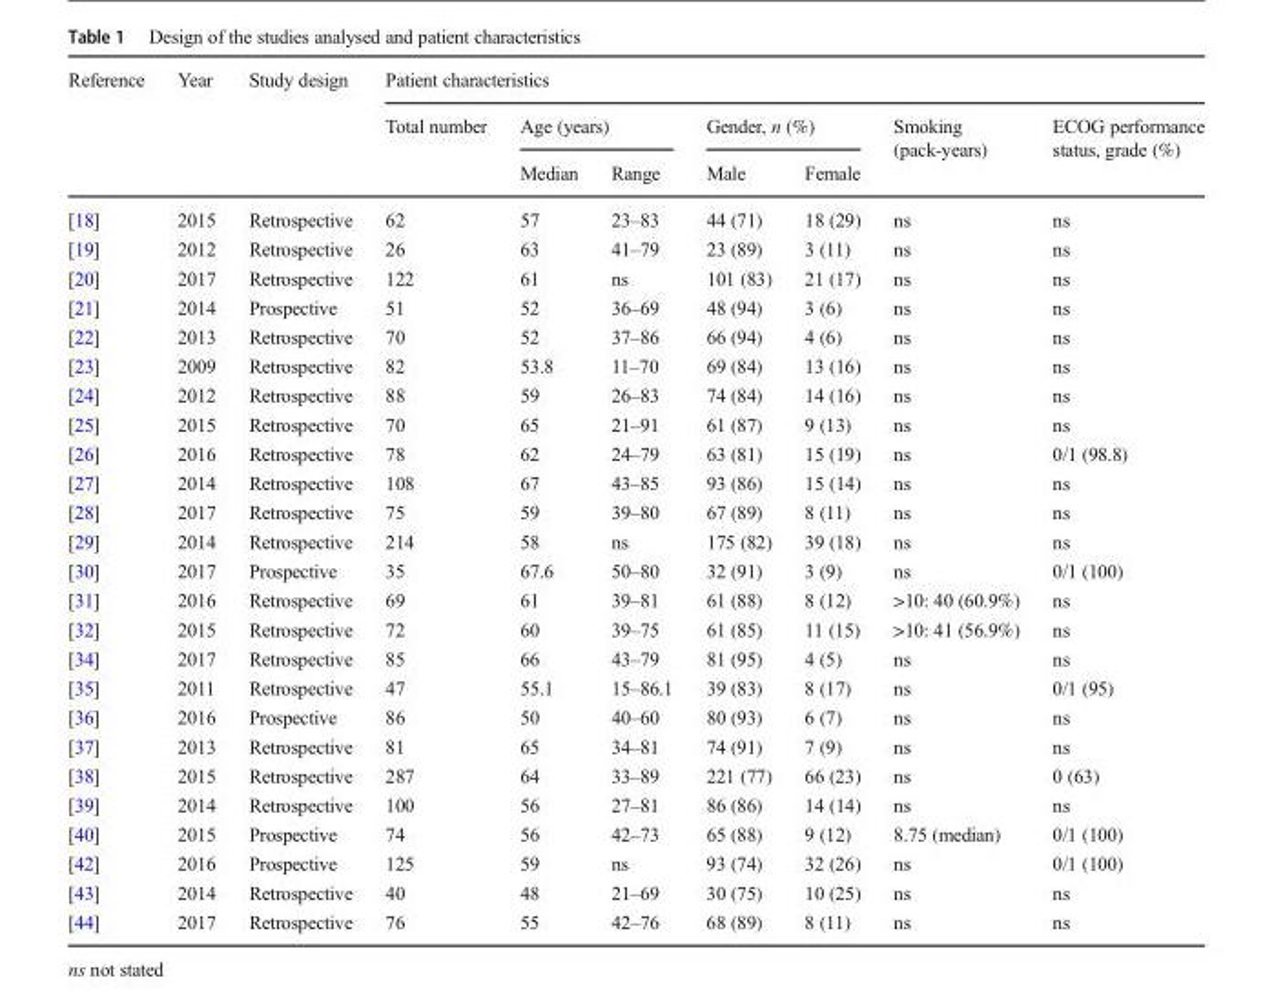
<table><thead><tr><td rowspan="3">Reference</td><td rowspan="3">Year</td><td rowspan="3">Study design</td><td colspan="7">Patient characteristics</td></tr><tr><td rowspan="2">Total number</td><td colspan="2">Age (years)</td><td colspan="2">Gender, n (%)</td><td rowspan="2">Smoking (pack-years)</td><td rowspan="2">ECOG performance status, grade (%)</td></tr><tr><td>Median</td><td>Range</td><td>Male</td><td>Female</td></tr></thead><tbody><tr><td>[18]</td><td>2015</td><td>Retrospective</td><td>62</td><td>57</td><td>23–83</td><td>44 (71)</td><td>18 (29)</td><td>ns</td><td>ns</td></tr><tr><td>[19]</td><td>2012</td><td>Retrospective</td><td>26</td><td>63</td><td>41–79</td><td>23 (89)</td><td>3 (11)</td><td>ns</td><td>ns</td></tr><tr><td>[20]</td><td>2017</td><td>Retrospective</td><td>122</td><td>61</td><td>ns</td><td>101 (83)</td><td>21 (17)</td><td>ns</td><td>ns</td></tr><tr><td>[21]</td><td>2014</td><td>Prospective</td><td>51</td><td>52</td><td>36–69</td><td>48 (94)</td><td>3 (6)</td><td>ns</td><td>ns</td></tr><tr><td>[22]</td><td>2013</td><td>Retrospective</td><td>70</td><td>52</td><td>37–86</td><td>66 (94)</td><td>4 (6)</td><td>ns</td><td>ns</td></tr><tr><td>[23]</td><td>2009</td><td>Retrospective</td><td>82</td><td>53.8</td><td>11–70</td><td>69 (84)</td><td>13 (16)</td><td>ns</td><td>ns</td></tr><tr><td>[24]</td><td>2012</td><td>Retrospective</td><td>88</td><td>59</td><td>26–83</td><td>74 (84)</td><td>14 (16)</td><td>ns</td><td>ns</td></tr><tr><td>[25]</td><td>2015</td><td>Retrospective</td><td>70</td><td>65</td><td>21–91</td><td>61 (87)</td><td>9 (13)</td><td>ns</td><td>ns</td></tr><tr><td>[26]</td><td>2016</td><td>Retrospective</td><td>78</td><td>62</td><td>24–79</td><td>63 (81)</td><td>15 (19)</td><td>ns</td><td>0/1 (98.8)</td></tr><tr><td>[27]</td><td>2014</td><td>Retrospective</td><td>108</td><td>67</td><td>43–85</td><td>93 (86)</td><td>15 (14)</td><td>ns</td><td>ns</td></tr><tr><td>[28]</td><td>2017</td><td>Retrospective</td><td>75</td><td>59</td><td>39–80</td><td>67 (89)</td><td>8 (11)</td><td>ns</td><td>ns</td></tr><tr><td>[29]</td><td>2014</td><td>Retrospective</td><td>214</td><td>58</td><td>ns</td><td>175 (82)</td><td>39 (18)</td><td>ns</td><td>ns</td></tr><tr><td>[30]</td><td>2017</td><td>Prospective</td><td>35</td><td>67.6</td><td>50–80</td><td>32 (91)</td><td>3 (9)</td><td>ns</td><td>0/1 (100)</td></tr><tr><td>[31]</td><td>2016</td><td>Retrospective</td><td>69</td><td>61</td><td>39–81</td><td>61 (88)</td><td>8 (12)</td><td>&gt;10: 40 (60.9%)</td><td>ns</td></tr><tr><td>[32]</td><td>2015</td><td>Retrospective</td><td>72</td><td>60</td><td>39–75</td><td>61 (85)</td><td>11 (15)</td><td>&gt;10: 41 (56.9%)</td><td>ns</td></tr><tr><td>[34]</td><td>2017</td><td>Retrospective</td><td>85</td><td>66</td><td>43–79</td><td>81 (95)</td><td>4 (5)</td><td>ns</td><td>ns</td></tr><tr><td>[35]</td><td>2011</td><td>Retrospective</td><td>47</td><td>55.1</td><td>15–86.1</td><td>39 (83)</td><td>8 (17)</td><td>ns</td><td>0/1 (95)</td></tr><tr><td>[36]</td><td>2016</td><td>Prospective</td><td>86</td><td>50</td><td>40–60</td><td>80 (93)</td><td>6 (7)</td><td>ns</td><td>ns</td></tr><tr><td>[37]</td><td>2013</td><td>Retrospective</td><td>81</td><td>65</td><td>34–81</td><td>74 (91)</td><td>7 (9)</td><td>ns</td><td>ns</td></tr><tr><td>[38]</td><td>2015</td><td>Retrospective</td><td>287</td><td>64</td><td>33–89</td><td>221 (77)</td><td>66 (23)</td><td>ns</td><td>0 (63)</td></tr><tr><td>[39]</td><td>2014</td><td>Retrospective</td><td>100</td><td>56</td><td>27–81</td><td>86 (86)</td><td>14 (14)</td><td>ns</td><td>ns</td></tr><tr><td>[40]</td><td>2015</td><td>Prospective</td><td>74</td><td>56</td><td>42–73</td><td>65 (88)</td><td>9 (12)</td><td>8.75 (median)</td><td>0/1 (100)</td></tr><tr><td>[42]</td><td>2016</td><td>Prospective</td><td>125</td><td>59</td><td>ns</td><td>93 (74)</td><td>32 (26)</td><td>ns</td><td>0/1 (100)</td></tr><tr><td>[43]</td><td>2014</td><td>Retrospective</td><td>40</td><td>48</td><td>21–69</td><td>30 (75)</td><td>10 (25)</td><td>ns</td><td>ns</td></tr><tr><td>[44]</td><td>2017</td><td>Retrospective</td><td>76</td><td>55</td><td>42–76</td><td>68 (89)</td><td>8 (11)</td><td>ns</td><td>ns</td></tr></tbody></table>